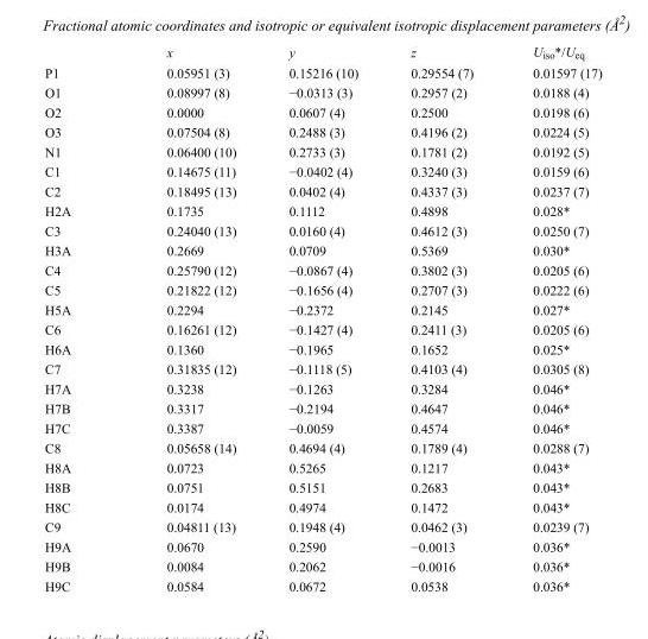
<table><thead><tr><td></td><td>x</td><td>y</td><td>z</td><td>U<sub>iso</sub>*/U<sub>eq</sub></td></tr></thead><tbody><tr><td>P1</td><td>0.05951 (3)</td><td>0.15216 (10)</td><td>0.29554 (7)</td><td>0.01597 (17)</td></tr><tr><td>O1</td><td>0.08997 (8)</td><td>−0.0313 (3)</td><td>0.2957 (2)</td><td>0.0188 (4)</td></tr><tr><td>O2</td><td>0.0000</td><td>0.0607 (4)</td><td>0.2500</td><td>0.0198 (6)</td></tr><tr><td>O3</td><td>0.07504 (8)</td><td>0.2488 (3)</td><td>0.4196 (2)</td><td>0.0224 (5)</td></tr><tr><td>N1</td><td>0.06400 (10)</td><td>0.2733 (3)</td><td>0.1781 (2)</td><td>0.0192 (5)</td></tr><tr><td>C1</td><td>0.14675 (11)</td><td>−0.0402 (4)</td><td>0.3240 (3)</td><td>0.0159 (6)</td></tr><tr><td>C2</td><td>0.18495 (13)</td><td>0.0402 (4)</td><td>0.4337 (3)</td><td>0.0237 (7)</td></tr><tr><td>H2A</td><td>0.1735</td><td>0.1112</td><td>0.4898</td><td>0.028*</td></tr><tr><td>C3</td><td>0.24040 (13)</td><td>0.0160 (4)</td><td>0.4612 (3)</td><td>0.0250 (7)</td></tr><tr><td>H3A</td><td>0.2669</td><td>0.0709</td><td>0.5369</td><td>0.030*</td></tr><tr><td>C4</td><td>0.25790 (12)</td><td>−0.0867 (4)</td><td>0.3802 (3)</td><td>0.0205 (6)</td></tr><tr><td>C5</td><td>0.21822 (12)</td><td>−0.1656 (4)</td><td>0.2707 (3)</td><td>0.0222 (6)</td></tr><tr><td>H5A</td><td>0.2294</td><td>−0.2372</td><td>0.2145</td><td>0.027*</td></tr><tr><td>C6</td><td>0.16261 (12)</td><td>−0.1427 (4)</td><td>0.2411 (3)</td><td>0.0205 (6)</td></tr><tr><td>H6A</td><td>0.1360</td><td>−0.1965</td><td>0.1652</td><td>0.025*</td></tr><tr><td>C7</td><td>0.31835 (12)</td><td>−0.1118 (5)</td><td>0.4103 (4)</td><td>0.0305 (8)</td></tr><tr><td>H7A</td><td>0.3238</td><td>−0.1263</td><td>0.3284</td><td>0.046*</td></tr><tr><td>H7B</td><td>0.3317</td><td>−0.2194</td><td>0.4647</td><td>0.046*</td></tr><tr><td>H7C</td><td>0.3387</td><td>−0.0059</td><td>0.4574</td><td>0.046*</td></tr><tr><td>C8</td><td>0.05658 (14)</td><td>0.4694 (4)</td><td>0.1789 (4)</td><td>0.0288 (7)</td></tr><tr><td>H8A</td><td>0.0723</td><td>0.5265</td><td>0.1217</td><td>0.043*</td></tr><tr><td>H8B</td><td>0.0751</td><td>0.5151</td><td>0.2683</td><td>0.043*</td></tr><tr><td>H8C</td><td>0.0174</td><td>0.4974</td><td>0.1472</td><td>0.043*</td></tr><tr><td>C9</td><td>0.04811 (13)</td><td>0.1948 (4)</td><td>0.0462 (3)</td><td>0.0239 (7)</td></tr><tr><td>H9A</td><td>0.0670</td><td>0.2590</td><td>−0.0013</td><td>0.036*</td></tr><tr><td>H9B</td><td>0.0084</td><td>0.2062</td><td>−0.0016</td><td>0.036*</td></tr><tr><td>H9C</td><td>0.0584</td><td>0.0672</td><td>0.0538</td><td>0.036*</td></tr></tbody></table>